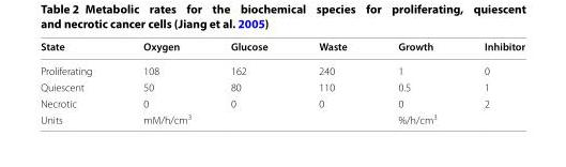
<table><thead><tr><td>State</td><td>Oxygen</td><td>Glucose</td><td>Waste</td><td>Growth</td><td>Inhibitor</td></tr></thead><tbody><tr><td>Proliferating</td><td>108</td><td>162</td><td>240</td><td>1</td><td>0</td></tr><tr><td>Quiescent</td><td>50</td><td>80</td><td>110</td><td>0.5</td><td>1</td></tr><tr><td>Necrotic</td><td>0</td><td>0</td><td>0</td><td>0</td><td>2</td></tr><tr><td>Units</td><td colspan="3">mM/h/cm<sup>3</sup></td><td colspan="2">%/h/cm<sup>3</sup></td></tr></tbody></table>